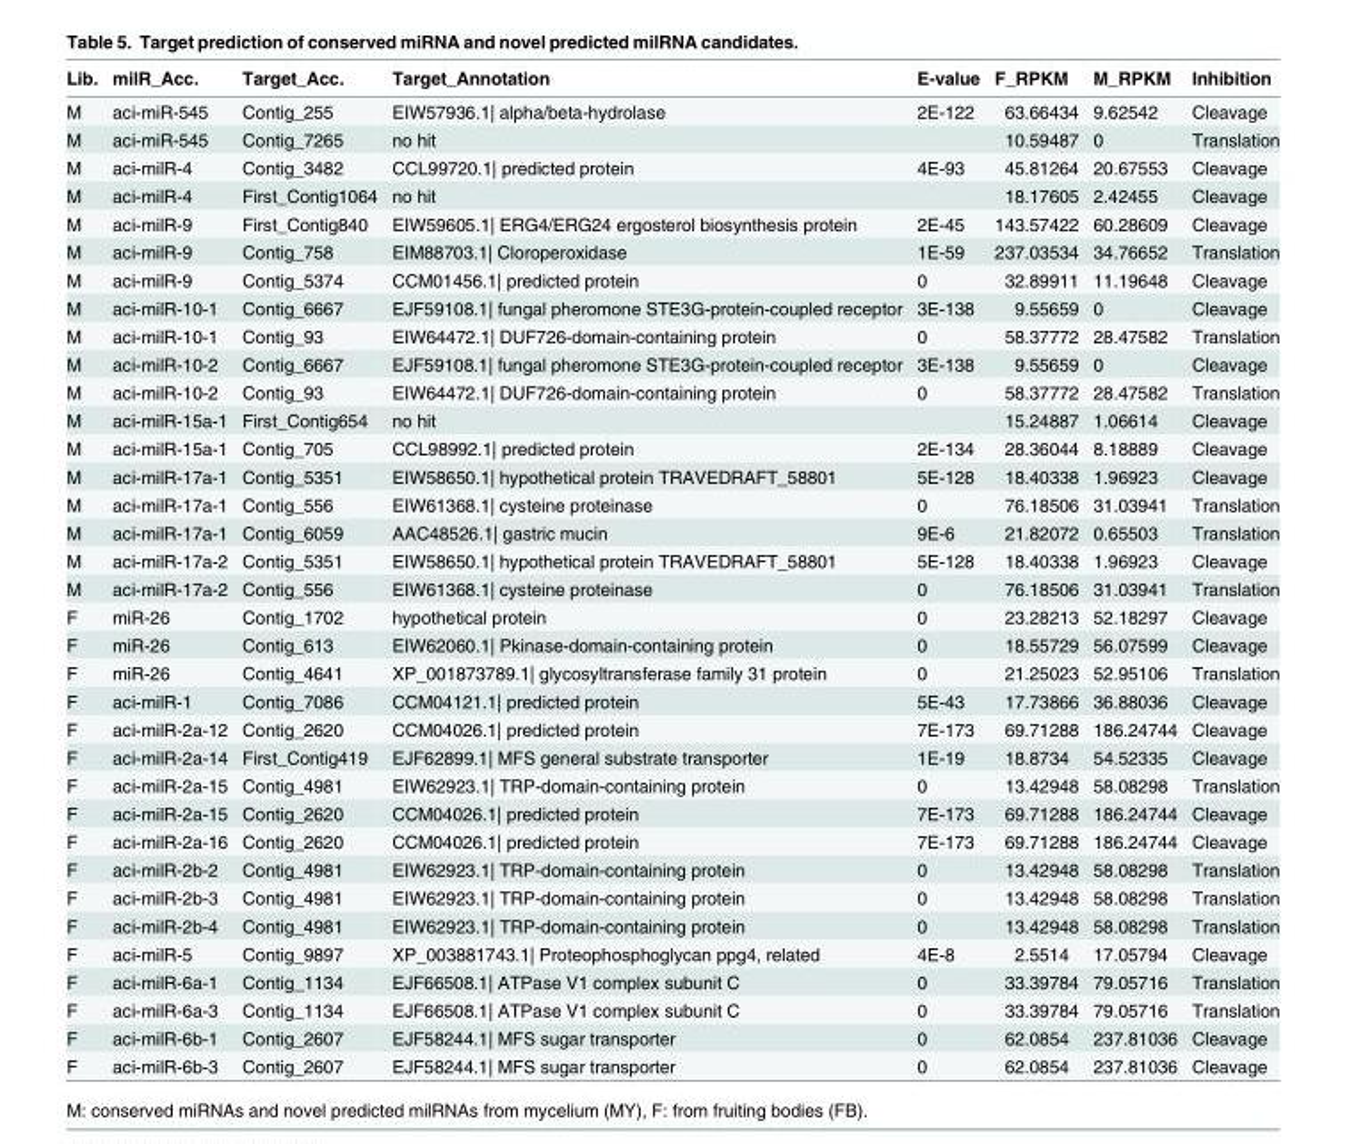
<table><thead><tr><td>Lib.</td><td>milR_Acc.</td><td>Target_Acc.</td><td>Target_Annotation</td><td>E-value</td><td>F_RPKM</td><td>M_RPKM</td><td>Inhibition</td></tr></thead><tbody><tr><td>M</td><td>aci-miR-545</td><td>Contig_255</td><td>EIW57936.1| alpha/beta-hydrolase</td><td>2E-122</td><td>63.66434</td><td>9.62542</td><td>Cleavage</td></tr><tr><td>M</td><td>aci-miR-545</td><td>Contig_7265</td><td>no hit</td><td></td><td>10.59487</td><td>0</td><td>Translation</td></tr><tr><td>M</td><td>aci-milR-4</td><td>Contig_3482</td><td>CCL99720.1| predicted protein</td><td>4E-93</td><td>45.81264</td><td>20.67553</td><td>Cleavage</td></tr><tr><td>M</td><td>aci-milR-4</td><td>First_Contig1064</td><td>no hit</td><td></td><td>18.17605</td><td>2.42455</td><td>Cleavage</td></tr><tr><td>M</td><td>aci-milR-9</td><td>First_Contig840</td><td>EIW59605.1| ERG4/ERG24 ergosterol biosynthesis protein</td><td>2E-45</td><td>143.57422</td><td>60.28609</td><td>Cleavage</td></tr><tr><td>M</td><td>aci-milR-9</td><td>Contig_758</td><td>EIM88703.1| Cloroperoxidase</td><td>1E-59</td><td>237.03534</td><td>34.76652</td><td>Translation</td></tr><tr><td>M</td><td>aci-milR-9</td><td>Contig_5374</td><td>CCM01456.1| predicted protein</td><td>0</td><td>32.89911</td><td>11.19648</td><td>Cleavage</td></tr><tr><td>M</td><td>aci-milR-10-1</td><td>Contig_6667</td><td>EJF59108.1| fungal pheromone STE3G-protein-coupled receptor</td><td>3E-138</td><td>9.55659</td><td>0</td><td>Cleavage</td></tr><tr><td>M</td><td>aci-milR-10-1</td><td>Contig_93</td><td>EIW64472.1| DUF726-domain-containing protein</td><td>0</td><td>58.37772</td><td>28.47582</td><td>Translation</td></tr><tr><td>M</td><td>aci-milR-10-2</td><td>Contig_6667</td><td>EJF59108.1| fungal pheromone STE3G-protein-coupled receptor</td><td>3E-138</td><td>9.55659</td><td>0</td><td>Cleavage</td></tr><tr><td>M</td><td>aci-milR-10-2</td><td>Contig_93</td><td>EIW64472.1| DUF726-domain-containing protein</td><td>0</td><td>58.37772</td><td>28.47582</td><td>Translation</td></tr><tr><td>M</td><td>aci-milR-15a-1</td><td>First_Contig654</td><td>no hit</td><td></td><td>15.24887</td><td>1.06614</td><td>Cleavage</td></tr><tr><td>M</td><td>aci-milR-15a-1</td><td>Contig_705</td><td>CCL98992.1| predicted protein</td><td>2E-134</td><td>28.36044</td><td>8.18889</td><td>Cleavage</td></tr><tr><td>M</td><td>aci-milR-17a-1</td><td>Contig_5351</td><td>EIW58650.1| hypothetical protein TRAVEDRAFT_58801</td><td>5E-128</td><td>18.40338</td><td>1.96923</td><td>Cleavage</td></tr><tr><td>M</td><td>aci-milR-17a-1</td><td>Contig_556</td><td>EIW61368.1| cysteine proteinase</td><td>0</td><td>76.18506</td><td>31.03941</td><td>Translation</td></tr><tr><td>M</td><td>aci-milR-17a-1</td><td>Contig_6059</td><td>AAC48526.1| gastric mucin</td><td>9E-6</td><td>21.82072</td><td>0.65503</td><td>Translation</td></tr><tr><td>M</td><td>aci-milR-17a-2</td><td>Contig_5351</td><td>EIW58650.1| hypothetical protein TRAVEDRAFT_58801</td><td>5E-128</td><td>18.40338</td><td>1.96923</td><td>Cleavage</td></tr><tr><td>M</td><td>aci-milR-17a-2</td><td>Contig_556</td><td>EIW61368.1| cysteine proteinase</td><td>0</td><td>76.18506</td><td>31.03941</td><td>Translation</td></tr><tr><td>F</td><td>miR-26</td><td>Contig_1702</td><td>hypothetical protein</td><td>0</td><td>23.28213</td><td>52.18297</td><td>Cleavage</td></tr><tr><td>F</td><td>miR-26</td><td>Contig_613</td><td>EIW62060.1| Pkinase-domain-containing protein</td><td>0</td><td>18.55729</td><td>56.07599</td><td>Cleavage</td></tr><tr><td>F</td><td>miR-26</td><td>Contig_4641</td><td>XP_001873789.1| glycosyltransferase family 31 protein</td><td>0</td><td>21.25023</td><td>52.95106</td><td>Translation</td></tr><tr><td>F</td><td>aci-milR-1</td><td>Contig_7086</td><td>CCM04121.1| predicted protein</td><td>5E-43</td><td>17.73866</td><td>36.88036</td><td>Cleavage</td></tr><tr><td>F</td><td>aci-milR-2a-12</td><td>Contig_2620</td><td>CCM04026.1| predicted protein</td><td>7E-173</td><td>69.71288</td><td>186.24744</td><td>Cleavage</td></tr><tr><td>F</td><td>aci-milR-2a-14</td><td>First_Contig419</td><td>EJF62899.1| MFS general substrate transporter</td><td>1E-19</td><td>18.8734</td><td>54.52335</td><td>Cleavage</td></tr><tr><td>F</td><td>aci-milR-2a-15</td><td>Contig_4981</td><td>EIW62923.1| TRP-domain-containing protein</td><td>0</td><td>13.42948</td><td>58.08298</td><td>Translation</td></tr><tr><td>F</td><td>aci-milR-2a-15</td><td>Contig_2620</td><td>CCM04026.1| predicted protein</td><td>7E-173</td><td>69.71288</td><td>186.24744</td><td>Cleavage</td></tr><tr><td>F</td><td>aci-milR-2a-16</td><td>Contig_2620</td><td>CCM04026.1| predicted protein</td><td>7E-173</td><td>69.71288</td><td>186.24744</td><td>Cleavage</td></tr><tr><td>F</td><td>aci-milR-2b-2</td><td>Contig_4981</td><td>EIW62923.1| TRP-domain-containing protein</td><td>0</td><td>13.42948</td><td>58.08298</td><td>Translation</td></tr><tr><td>F</td><td>aci-milR-2b-3</td><td>Contig_4981</td><td>EIW62923.1| TRP-domain-containing protein</td><td>0</td><td>13.42948</td><td>58.08298</td><td>Translation</td></tr><tr><td>F</td><td>aci-milR-2b-4</td><td>Contig_4981</td><td>EIW62923.1| TRP-domain-containing protein</td><td>0</td><td>13.42948</td><td>58.08298</td><td>Translation</td></tr><tr><td>F</td><td>aci-milR-5</td><td>Contig_9897</td><td>XP_003881743.1| Proteophosphoglycan ppg4, related</td><td>4E-8</td><td>2.5514</td><td>17.05794</td><td>Cleavage</td></tr><tr><td>F</td><td>aci-milR-6a-1</td><td>Contig_1134</td><td>EJF66508.1| ATPase V1 complex subunit C</td><td>0</td><td>33.39784</td><td>79.05716</td><td>Translation</td></tr><tr><td>F</td><td>aci-milR-6a-3</td><td>Contig_1134</td><td>EJF66508.1| ATPase V1 complex subunit C</td><td>0</td><td>33.39784</td><td>79.05716</td><td>Translation</td></tr><tr><td>F</td><td>aci-milR-6b-1</td><td>Contig_2607</td><td>EJF58244.1| MFS sugar transporter</td><td>0</td><td>62.0854</td><td>237.81036</td><td>Cleavage</td></tr><tr><td>F</td><td>aci-milR-6b-3</td><td>Contig_2607</td><td>EJF58244.1| MFS sugar transporter</td><td>0</td><td>62.0854</td><td>237.81036</td><td>Cleavage</td></tr></tbody></table>